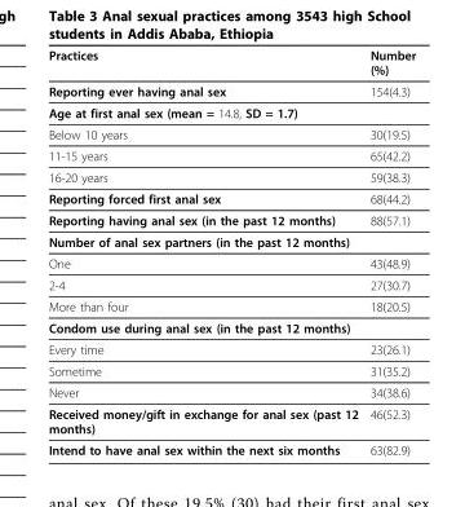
<table><thead><tr><td>Practices</td><td>Number (%)</td></tr></thead><tbody><tr><td>Reporting ever having anal sex</td><td>154(4.3)</td></tr><tr><td colspan="2">Age at first anal sex (mean = 14.8, SD = 1.7)</td></tr><tr><td>Below 10 years</td><td>30(19.5)</td></tr><tr><td>11-15 years</td><td>65(42.2)</td></tr><tr><td>16-20 years</td><td>59(38.3)</td></tr><tr><td>Reporting forced first anal sex</td><td>68(44.2)</td></tr><tr><td>Reporting having anal sex (in the past 12 months)</td><td>88(57.1)</td></tr><tr><td colspan="2">Number of anal sex partners (in the past 12 months)</td></tr><tr><td>One</td><td>43(48.9)</td></tr><tr><td>2-4</td><td>27(30.7)</td></tr><tr><td>More than four</td><td>18(20.5)</td></tr><tr><td colspan="2">Condom use during anal sex (in the past 12 months)</td></tr><tr><td>Every time</td><td>23(26.1)</td></tr><tr><td>Sometime</td><td>31(35.2)</td></tr><tr><td>Never</td><td>34(38.6)</td></tr><tr><td>Received money/gift in exchange for anal sex (past 12 months)</td><td>46(52.3)</td></tr><tr><td>Intend to have anal sex within the next six months</td><td>63(82.9)</td></tr></tbody></table>